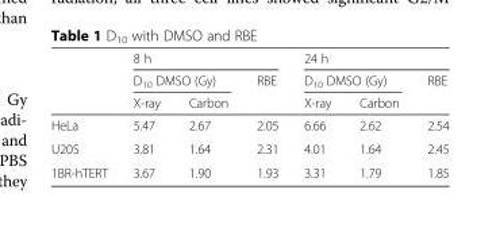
<table><thead><tr><td rowspan="3"></td><td colspan="3">8 h</td><td colspan="3">24 h</td></tr><tr><td colspan="2">D<sub>10</sub> DMSO (Gy)</td><td rowspan="2">RBE</td><td colspan="2">D<sub>10</sub> DMSO (Gy)</td><td rowspan="2">RBE</td></tr><tr><td>X-ray</td><td>Carbon</td><td>X-ray</td><td>Carbon</td></tr></thead><tbody><tr><td>HeLa</td><td>5.47</td><td>2.67</td><td>2.05</td><td>6.66</td><td>2.62</td><td>2.54</td></tr><tr><td>U20S</td><td>3.81</td><td>1.64</td><td>2.31</td><td>4.01</td><td>1.64</td><td>2.45</td></tr><tr><td>1BR-hTERT</td><td>3.67</td><td>1.90</td><td>1.93</td><td>3.31</td><td>1.79</td><td>1.85</td></tr></tbody></table>